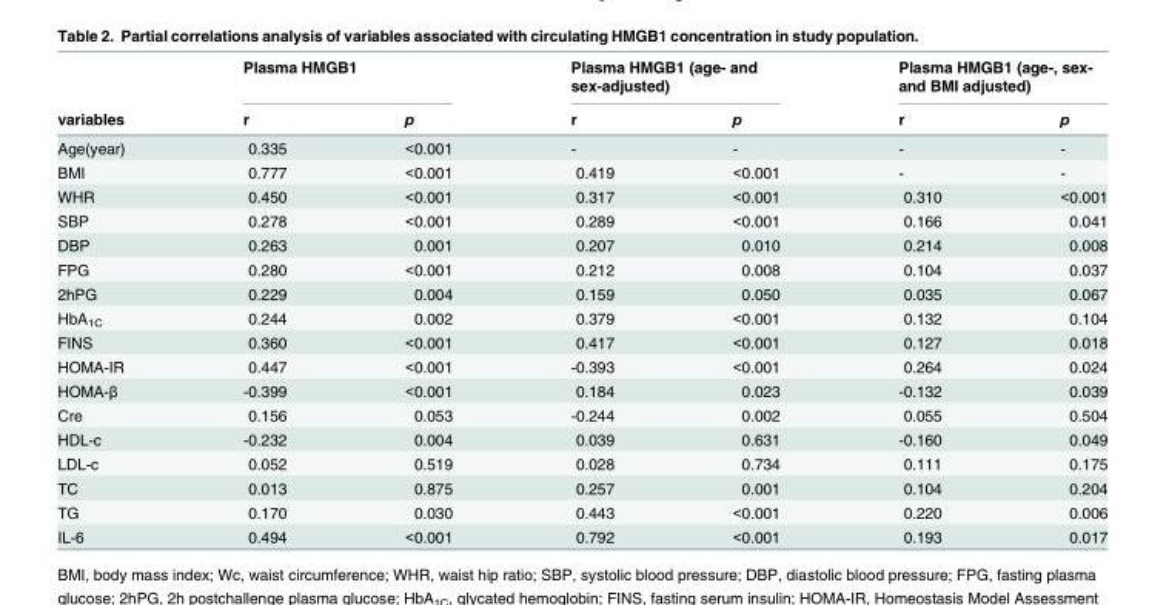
<table><thead><tr><td rowspan="2">variables</td><td colspan="2">Plasma HMGB1</td><td colspan="2">Plasma HMGB1 (age- and sex-adjusted)</td><td colspan="2">Plasma HMGB1 (age-, sex- and BMI adjusted)</td></tr><tr><td>r</td><td>p</td><td>r</td><td>p</td><td>r</td><td>p</td></tr></thead><tbody><tr><td>Age(year)</td><td>0.335</td><td>&lt;0.001</td><td>-</td><td>-</td><td>-</td><td>-</td></tr><tr><td>BMI</td><td>0.777</td><td>&lt;0.001</td><td>0.419</td><td>&lt;0.001</td><td>-</td><td>-</td></tr><tr><td>WHR</td><td>0.450</td><td>&lt;0.001</td><td>0.317</td><td>&lt;0.001</td><td>0.310</td><td>&lt;0.001</td></tr><tr><td>SBP</td><td>0.278</td><td>&lt;0.001</td><td>0.289</td><td>&lt;0.001</td><td>0.166</td><td>0.041</td></tr><tr><td>DBP</td><td>0.263</td><td>0.001</td><td>0.207</td><td>0.010</td><td>0.214</td><td>0.008</td></tr><tr><td>FPG</td><td>0.280</td><td>&lt;0.001</td><td>0.212</td><td>0.008</td><td>0.104</td><td>0.037</td></tr><tr><td>2hPG</td><td>0.229</td><td>0.004</td><td>0.159</td><td>0.050</td><td>0.035</td><td>0.067</td></tr><tr><td>HbA<sub>1C</sub></td><td>0.244</td><td>0.002</td><td>0.379</td><td>&lt;0.001</td><td>0.132</td><td>0.104</td></tr><tr><td>FINS</td><td>0.360</td><td>&lt;0.001</td><td>0.417</td><td>&lt;0.001</td><td>0.127</td><td>0.018</td></tr><tr><td>HOMA-IR</td><td>0.447</td><td>&lt;0.001</td><td>-0.393</td><td>&lt;0.001</td><td>0.264</td><td>0.024</td></tr><tr><td>HOMA-β</td><td>-0.399</td><td>&lt;0.001</td><td>0.184</td><td>0.023</td><td>-0.132</td><td>0.039</td></tr><tr><td>Cre</td><td>0.156</td><td>0.053</td><td>-0.244</td><td>0.002</td><td>0.055</td><td>0.504</td></tr><tr><td>HDL-c</td><td>-0.232</td><td>0.004</td><td>0.039</td><td>0.631</td><td>-0.160</td><td>0.049</td></tr><tr><td>LDL-c</td><td>0.052</td><td>0.519</td><td>0.028</td><td>0.734</td><td>0.111</td><td>0.175</td></tr><tr><td>TC</td><td>0.013</td><td>0.875</td><td>0.257</td><td>0.001</td><td>0.104</td><td>0.204</td></tr><tr><td>TG</td><td>0.170</td><td>0.030</td><td>0.443</td><td>&lt;0.001</td><td>0.220</td><td>0.006</td></tr><tr><td>IL-6</td><td>0.494</td><td>&lt;0.001</td><td>0.792</td><td>&lt;0.001</td><td>0.193</td><td>0.017</td></tr></tbody></table>